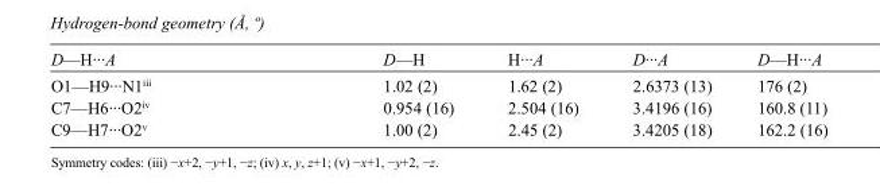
<table><tbody><tr><td>D—H···A</td><td>D—H</td><td>H···A</td><td>D···A</td><td>D—H···A</td></tr><tr><td>O1—H9···N1<sup>iii</sup></td><td>1.02 (2)</td><td>1.62 (2)</td><td>2.6373 (13)</td><td>176 (2)</td></tr><tr><td>C7—H6···O2<sup>iv</sup></td><td>0.954 (16)</td><td>2.504 (16)</td><td>3.4196 (16)</td><td>160.8 (11)</td></tr><tr><td>C9—H7···O2<sup>v</sup></td><td>1.00 (2)</td><td>2.45 (2)</td><td>3.4205 (18)</td><td>162.2 (16)</td></tr></tbody></table>